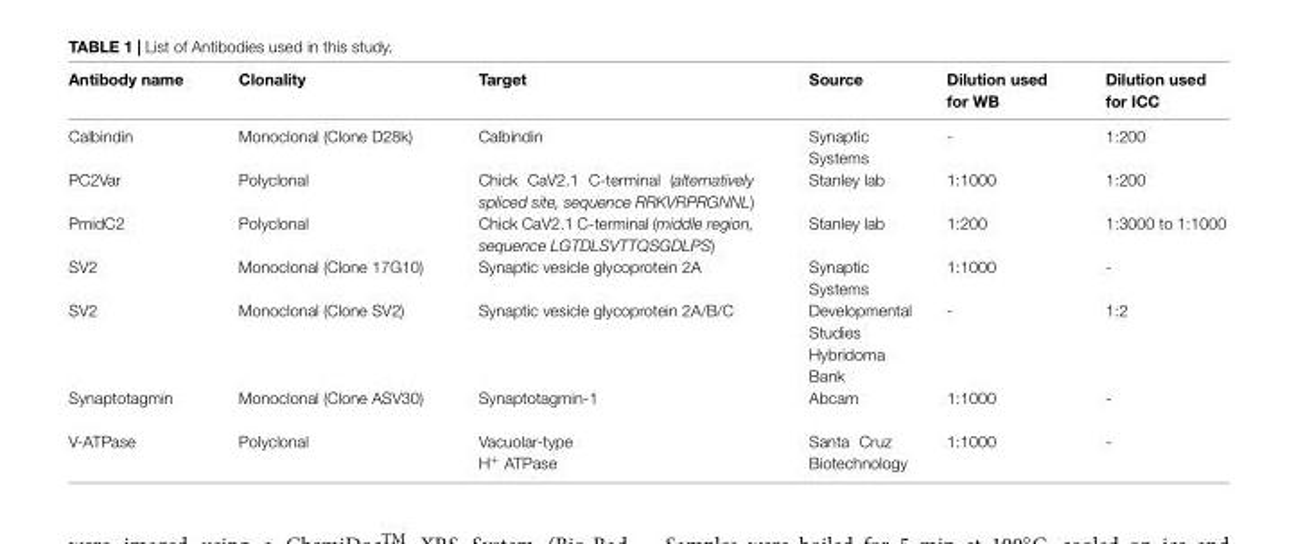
<table><thead><tr><td>Antibody name</td><td>Clonality</td><td>Target</td><td>Source</td><td>Dilution used for WB</td><td>Dilution used for ICC</td></tr></thead><tbody><tr><td>Calbindin</td><td>Monoclonal (Clone D28k)</td><td>Calbindin</td><td>Synaptic Systems</td><td>-</td><td>1:200</td></tr><tr><td>PC2Var</td><td>Polyclonal</td><td>Chick CaV2.1 C-terminal (alternatively spliced site, sequence RRKVRPRGNNL)</td><td>Stanley lab</td><td>1:1000</td><td>1:200</td></tr><tr><td>PmidC2</td><td>Polyclonal</td><td>Chick CaV2.1 C-terminal (middle region, sequence LGTDLSVTTQSGDLPS)</td><td>Stanley lab</td><td>1:200</td><td>1:3000 to 1:1000</td></tr><tr><td>SV2</td><td>Monoclonal (Clone 17G10)</td><td>Synaptic vesicle glycoprotein 2A</td><td>Synaptic Systems</td><td>1:1000</td><td>-</td></tr><tr><td>SV2</td><td>Monoclonal (Clone SV2)</td><td>Synaptic vesicle glycoprotein 2A/B/C</td><td>Developmental Studies Hybridoma Bank</td><td>-</td><td>1:2</td></tr><tr><td>Synaptotagmin</td><td>Monoclonal (Clone ASV30)</td><td>Synaptotagmin-1</td><td>Abcam</td><td>1:1000</td><td>-</td></tr><tr><td>V-ATPase</td><td>Polyclonal</td><td>Vacuolar-type H<sup>+</sup> ATPase</td><td>Santa Cruz Biotechnology</td><td>1:1000</td><td>-</td></tr></tbody></table>